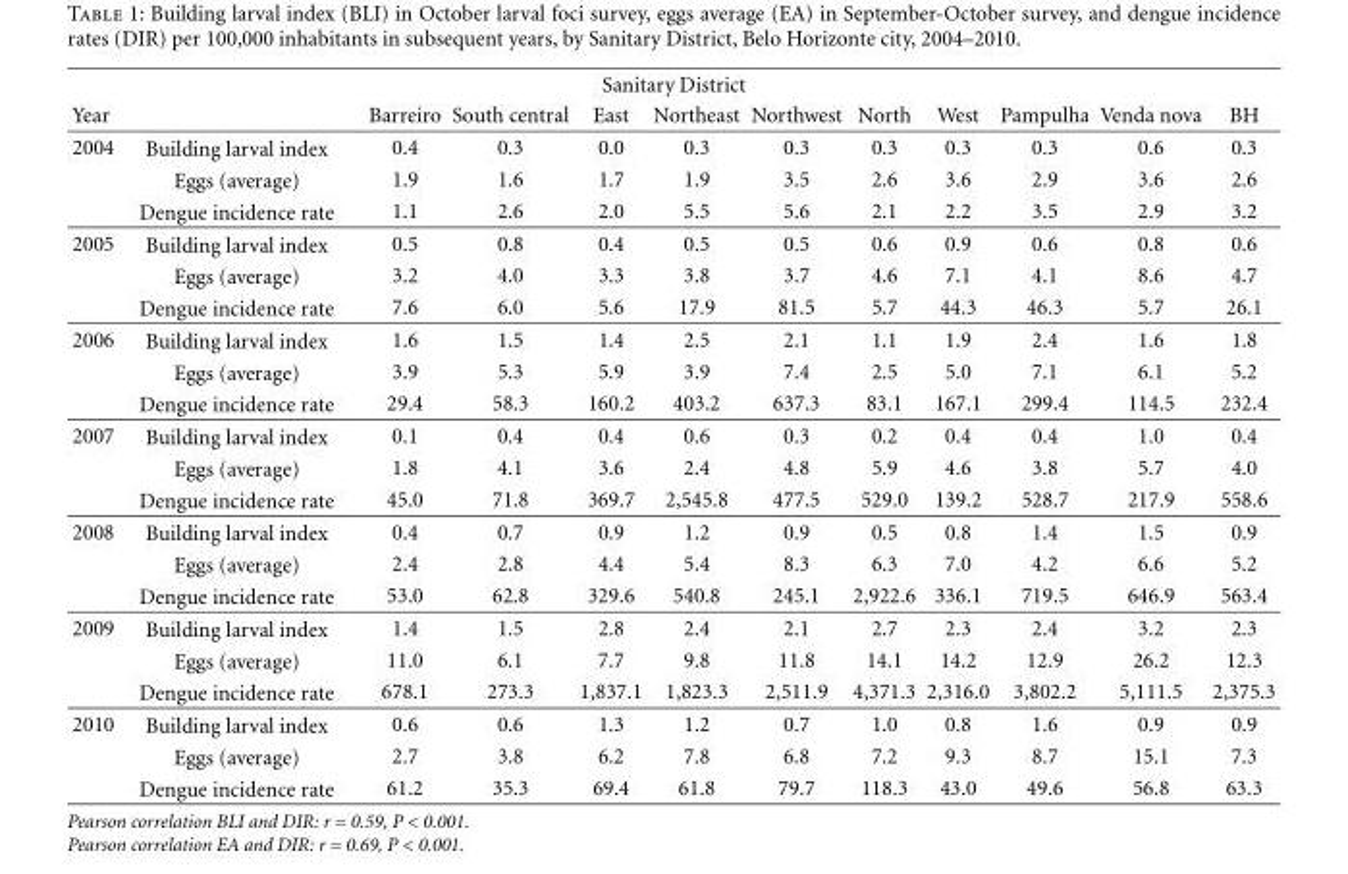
<table><thead><tr><td colspan="12">Sanitary District</td></tr><tr><td>Year</td><td></td><td>Barreiro</td><td>South central</td><td>East</td><td>Northeast</td><td>Northwest</td><td>North</td><td>West</td><td>Pampulha</td><td>Venda nova</td><td>BH</td></tr></thead><tbody><tr><td rowspan="3">2004</td><td>Building larval index</td><td>0.4</td><td>0.3</td><td>0.0</td><td>0.3</td><td>0.3</td><td>0.3</td><td>0.3</td><td>0.3</td><td>0.6</td><td>0.3</td></tr><tr><td>Eggs (average)</td><td>1.9</td><td>1.6</td><td>1.7</td><td>1.9</td><td>3.5</td><td>2.6</td><td>3.6</td><td>2.9</td><td>3.6</td><td>2.6</td></tr><tr><td>Dengue incidence rate</td><td>1.1</td><td>2.6</td><td>2.0</td><td>5.5</td><td>5.6</td><td>2.1</td><td>2.2</td><td>3.5</td><td>2.9</td><td>3.2</td></tr><tr><td rowspan="3">2005</td><td>Building larval index</td><td>0.5</td><td>0.8</td><td>0.4</td><td>0.5</td><td>0.5</td><td>0.6</td><td>0.9</td><td>0.6</td><td>0.8</td><td>0.6</td></tr><tr><td>Eggs (average)</td><td>3.2</td><td>4.0</td><td>3.3</td><td>3.8</td><td>3.7</td><td>4.6</td><td>7.1</td><td>4.1</td><td>8.6</td><td>4.7</td></tr><tr><td>Dengue incidence rate</td><td>7.6</td><td>6.0</td><td>5.6</td><td>17.9</td><td>81.5</td><td>5.7</td><td>44.3</td><td>46.3</td><td>5.7</td><td>26.1</td></tr><tr><td rowspan="3">2006</td><td>Building larval index</td><td>1.6</td><td>1.5</td><td>1.4</td><td>2.5</td><td>2.1</td><td>1.1</td><td>1.9</td><td>2.4</td><td>1.6</td><td>1.8</td></tr><tr><td>Eggs (average)</td><td>3.9</td><td>5.3</td><td>5.9</td><td>3.9</td><td>7.4</td><td>2.5</td><td>5.0</td><td>7.1</td><td>6.1</td><td>5.2</td></tr><tr><td>Dengue incidence rate</td><td>29.4</td><td>58.3</td><td>160.2</td><td>403.2</td><td>637.3</td><td>83.1</td><td>167.1</td><td>299.4</td><td>114.5</td><td>232.4</td></tr><tr><td rowspan="3">2007</td><td>Building larval index</td><td>0.1</td><td>0.4</td><td>0.4</td><td>0.6</td><td>0.3</td><td>0.2</td><td>0.4</td><td>0.4</td><td>1.0</td><td>0.4</td></tr><tr><td>Eggs (average)</td><td>1.8</td><td>4.1</td><td>3.6</td><td>2.4</td><td>4.8</td><td>5.9</td><td>4.6</td><td>3.8</td><td>5.7</td><td>4.0</td></tr><tr><td>Dengue incidence rate</td><td>45.0</td><td>71.8</td><td>369.7</td><td>2,545.8</td><td>477.5</td><td>529.0</td><td>139.2</td><td>528.7</td><td>217.9</td><td>558.6</td></tr><tr><td rowspan="3">2008</td><td>Building larval index</td><td>0.4</td><td>0.7</td><td>0.9</td><td>1.2</td><td>0.9</td><td>0.5</td><td>0.8</td><td>1.4</td><td>1.5</td><td>0.9</td></tr><tr><td>Eggs (average)</td><td>2.4</td><td>2.8</td><td>4.4</td><td>5.4</td><td>8.3</td><td>6.3</td><td>7.0</td><td>4.2</td><td>6.6</td><td>5.2</td></tr><tr><td>Dengue incidence rate</td><td>53.0</td><td>62.8</td><td>329.6</td><td>540.8</td><td>245.1</td><td>2,922.6</td><td>336.1</td><td>719.5</td><td>646.9</td><td>563.4</td></tr><tr><td rowspan="3">2009</td><td>Building larval index</td><td>1.4</td><td>1.5</td><td>2.8</td><td>2.4</td><td>2.1</td><td>2.7</td><td>2.3</td><td>2.4</td><td>3.2</td><td>2.3</td></tr><tr><td>Eggs (average)</td><td>11.0</td><td>6.1</td><td>7.7</td><td>9.8</td><td>11.8</td><td>14.1</td><td>14.2</td><td>12.9</td><td>26.2</td><td>12.3</td></tr><tr><td>Dengue incidence rate</td><td>678.1</td><td>273.3</td><td>1,837.1</td><td>1,823.3</td><td>2,511.9</td><td>4,371.3</td><td>2,316.0</td><td>3,802.2</td><td>5,111.5</td><td>2,375.3</td></tr><tr><td rowspan="3">2010</td><td>Building larval index</td><td>0.6</td><td>0.6</td><td>1.3</td><td>1.2</td><td>0.7</td><td>1.0</td><td>0.8</td><td>1.6</td><td>0.9</td><td>0.9</td></tr><tr><td>Eggs (average)</td><td>2.7</td><td>3.8</td><td>6.2</td><td>7.8</td><td>6.8</td><td>7.2</td><td>9.3</td><td>8.7</td><td>15.1</td><td>7.3</td></tr><tr><td>Dengue incidence rate</td><td>61.2</td><td>35.3</td><td>69.4</td><td>61.8</td><td>79.7</td><td>118.3</td><td>43.0</td><td>49.6</td><td>56.8</td><td>63.3</td></tr></tbody></table>